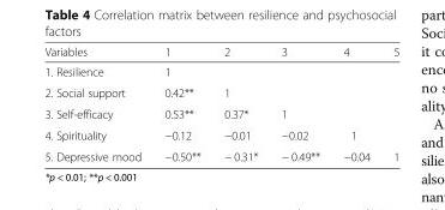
<table><thead><tr><td>Variables</td><td>1</td><td>2</td><td>3</td><td>4</td><td>5</td></tr></thead><tbody><tr><td>1. Resilience</td><td>1</td><td></td><td></td><td></td><td></td></tr><tr><td>2. Social support</td><td>0.42**</td><td>1</td><td></td><td></td><td></td></tr><tr><td>3. Self-efficacy</td><td>0.53**</td><td>0.37*</td><td>1</td><td></td><td></td></tr><tr><td>4. Spirituality</td><td>−0.12</td><td>−0.01</td><td>−0.02</td><td>1</td><td></td></tr><tr><td>5. Depressive mood</td><td>−0.50**</td><td>− 0.31*</td><td>− 0.49**</td><td>−0.04</td><td>1</td></tr></tbody></table>